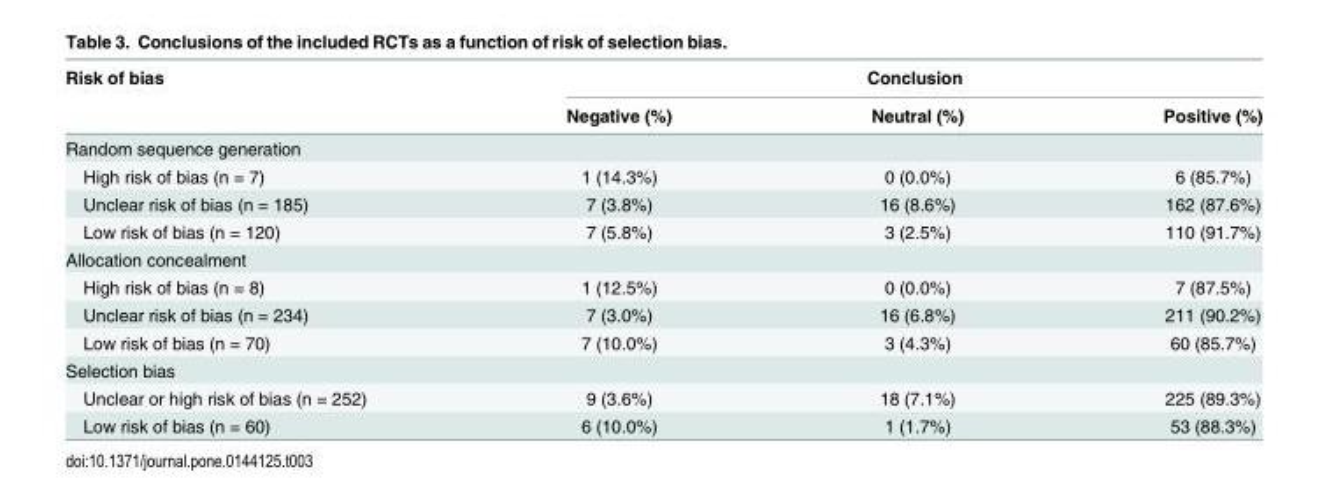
<table><thead><tr><td rowspan="2">Risk of bias</td><td colspan="3">Conclusion</td></tr><tr><td>Negative (%)</td><td>Neutral (%)</td><td>Positive (%)</td></tr></thead><tbody><tr><td colspan="4">Random sequence generation</td></tr><tr><td>High risk of bias (n = 7)</td><td>1 (14.3%)</td><td>0 (0.0%)</td><td>6 (85.7%)</td></tr><tr><td>Unclear risk of bias (n = 185)</td><td>7 (3.8%)</td><td>16 (8.6%)</td><td>162 (87.6%)</td></tr><tr><td>Low risk of bias (n = 120)</td><td>7 (5.8%)</td><td>3 (2.5%)</td><td>110 (91.7%)</td></tr><tr><td colspan="4">Allocation concealment</td></tr><tr><td>High risk of bias (n = 8)</td><td>1 (12.5%)</td><td>0 (0.0%)</td><td>7 (87.5%)</td></tr><tr><td>Unclear risk of bias (n = 234)</td><td>7 (3.0%)</td><td>16 (6.8%)</td><td>211 (90.2%)</td></tr><tr><td>Low risk of bias (n = 70)</td><td>7 (10.0%)</td><td>3 (4.3%)</td><td>60 (85.7%)</td></tr><tr><td colspan="4">Selection bias</td></tr><tr><td>Unclear or high risk of bias (n = 252)</td><td>9 (3.6%)</td><td>18 (7.1%)</td><td>225 (89.3%)</td></tr><tr><td>Low risk of bias (n = 60)</td><td>6 (10.0%)</td><td>1 (1.7%)</td><td>53 (88.3%)</td></tr></tbody></table>